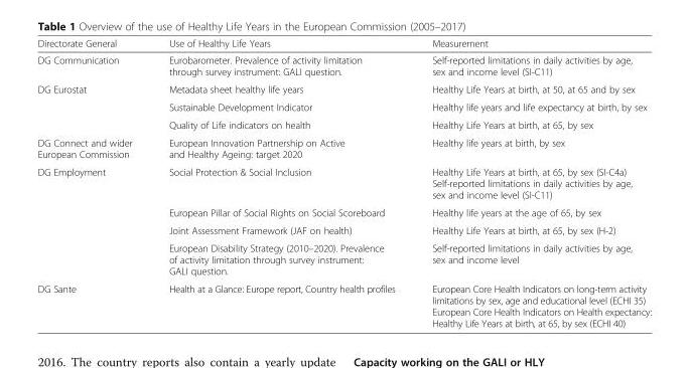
<table><thead><tr><td>Directorate General</td><td>Use of Healthy Life Years</td><td>Measurement</td></tr></thead><tbody><tr><td>DG Communication</td><td>Eurobarometer. Prevalence of activity limitation through survey instrument: GALI question.</td><td>Self-reported limitations in daily activities by age, sex and income level (SI-C11)</td></tr><tr><td rowspan="3">DG Eurostat</td><td>Metadata sheet healthy life years</td><td>Healthy Life Years at birth, at 50, at 65 and by sex</td></tr><tr><td>Sustainable Development Indicator</td><td>Healthy life years and life expectancy at birth, by sex</td></tr><tr><td>Quality of Life indicators on health</td><td>Healthy Life Years at birth, at 65, by sex</td></tr><tr><td>DG Connect and wider European Commission</td><td>European Innovation Partnership on Active and Healthy Ageing: target 2020</td><td>Healthy life years at birth, by sex</td></tr><tr><td rowspan="4">DG Employment</td><td>Social Protection &amp; Social Inclusion</td><td>Healthy Life Years at birth, at 65, by sex (SI-C4a) Self-reported limitations in daily activities by age, sex and income level (SI-C11)</td></tr><tr><td>European Pillar of Social Rights on Social Scoreboard</td><td>Healthy life years at the age of 65, by sex</td></tr><tr><td>Joint Assessment Framework (JAF on health)</td><td>Healthy Life Years at birth, at 65, by sex (H-2)</td></tr><tr><td>European Disability Strategy (2010–2020). Prevalence of activity limitation through survey instrument: GALI question.</td><td>Self-reported limitations in daily activities by age, sex and income level</td></tr><tr><td>DG Sante</td><td>Health at a Glance: Europe report, Country health profiles</td><td>European Core Health Indicators on long-term activity limitations by sex, age and educational level (ECHI 35) European Core Health Indicators on Health expectancy: Healthy Life Years at birth, at 65, by sex (ECHI 40)</td></tr></tbody></table>